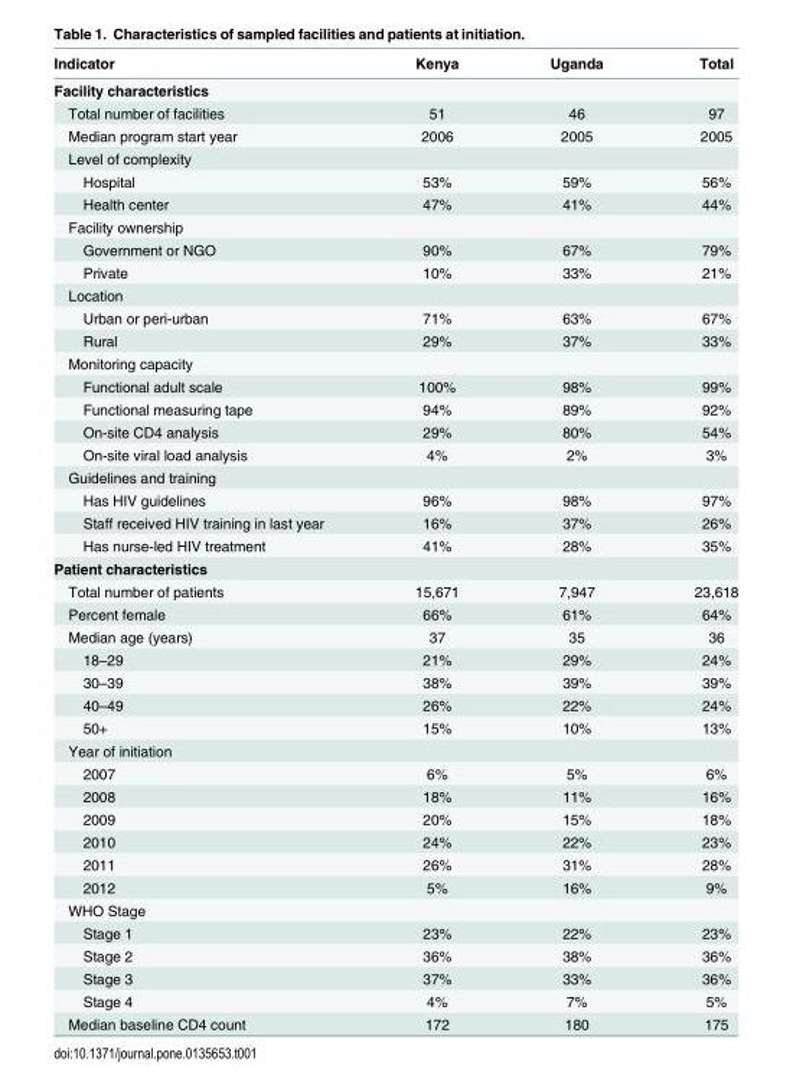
<table><thead><tr><td>Indicator</td><td>Kenya</td><td>Uganda</td><td>Total</td></tr></thead><tbody><tr><td colspan="4">Facility characteristics</td></tr><tr><td>Total number of facilities</td><td>51</td><td>46</td><td>97</td></tr><tr><td>Median program start year</td><td>2006</td><td>2005</td><td>2005</td></tr><tr><td colspan="4">Level of complexity</td></tr><tr><td>Hospital</td><td>53%</td><td>59%</td><td>56%</td></tr><tr><td>Health center</td><td>47%</td><td>41%</td><td>44%</td></tr><tr><td colspan="4">Facility ownership</td></tr><tr><td>Government or NGO</td><td>90%</td><td>67%</td><td>79%</td></tr><tr><td>Private</td><td>10%</td><td>33%</td><td>21%</td></tr><tr><td colspan="4">Location</td></tr><tr><td>Urban or peri-urban</td><td>71%</td><td>63%</td><td>67%</td></tr><tr><td>Rural</td><td>29%</td><td>37%</td><td>33%</td></tr><tr><td colspan="4">Monitoring capacity</td></tr><tr><td>Functional adult scale</td><td>100%</td><td>98%</td><td>99%</td></tr><tr><td>Functional measuring tape</td><td>94%</td><td>89%</td><td>92%</td></tr><tr><td>On-site CD4 analysis</td><td>29%</td><td>80%</td><td>54%</td></tr><tr><td>On-site viral load analysis</td><td>4%</td><td>2%</td><td>3%</td></tr><tr><td colspan="4">Guidelines and training</td></tr><tr><td>Has HIV guidelines</td><td>96%</td><td>98%</td><td>97%</td></tr><tr><td>Staff received HIV training in last year</td><td>16%</td><td>37%</td><td>26%</td></tr><tr><td>Has nurse-led HIV treatment</td><td>41%</td><td>28%</td><td>35%</td></tr><tr><td colspan="4">Patient characteristics</td></tr><tr><td>Total number of patients</td><td>15,671</td><td>7,947</td><td>23,618</td></tr><tr><td>Percent female</td><td>66%</td><td>61%</td><td>64%</td></tr><tr><td>Median age (years)</td><td>37</td><td>35</td><td>36</td></tr><tr><td>18–29</td><td>21%</td><td>29%</td><td>24%</td></tr><tr><td>30–39</td><td>38%</td><td>39%</td><td>39%</td></tr><tr><td>40–49</td><td>26%</td><td>22%</td><td>24%</td></tr><tr><td>50+</td><td>15%</td><td>10%</td><td>13%</td></tr><tr><td colspan="4">Year of initiation</td></tr><tr><td>2007</td><td>6%</td><td>5%</td><td>6%</td></tr><tr><td>2008</td><td>18%</td><td>11%</td><td>16%</td></tr><tr><td>2009</td><td>20%</td><td>15%</td><td>18%</td></tr><tr><td>2010</td><td>24%</td><td>22%</td><td>23%</td></tr><tr><td>2011</td><td>26%</td><td>31%</td><td>28%</td></tr><tr><td>2012</td><td>5%</td><td>16%</td><td>9%</td></tr><tr><td colspan="4">WHO Stage</td></tr><tr><td>Stage 1</td><td>23%</td><td>22%</td><td>23%</td></tr><tr><td>Stage 2</td><td>36%</td><td>38%</td><td>36%</td></tr><tr><td>Stage 3</td><td>37%</td><td>33%</td><td>36%</td></tr><tr><td>Stage 4</td><td>4%</td><td>7%</td><td>5%</td></tr><tr><td>Median baseline CD4 count</td><td>172</td><td>180</td><td>175</td></tr></tbody></table>